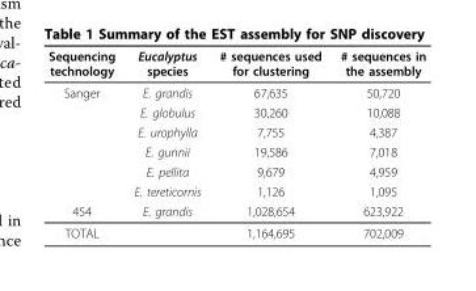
<table><thead><tr><td>Sequencing technology</td><td>Eucalyptus species</td><td># sequences used for clustering</td><td># sequences in the assembly</td></tr></thead><tbody><tr><td rowspan="6">Sanger</td><td>E. grandis</td><td>67,635</td><td>50,720</td></tr><tr><td>E. globulus</td><td>30,260</td><td>10,088</td></tr><tr><td>E. urophylla</td><td>7,755</td><td>4,387</td></tr><tr><td>E. gunnii</td><td>19,586</td><td>7,018</td></tr><tr><td>E. pellita</td><td>9,679</td><td>4,959</td></tr><tr><td>E. tereticornis</td><td>1,126</td><td>1,095</td></tr><tr><td>454</td><td>E. grandis</td><td>1,028,654</td><td>623,922</td></tr><tr><td>TOTAL</td><td></td><td>1,164,695</td><td>702,009</td></tr></tbody></table>